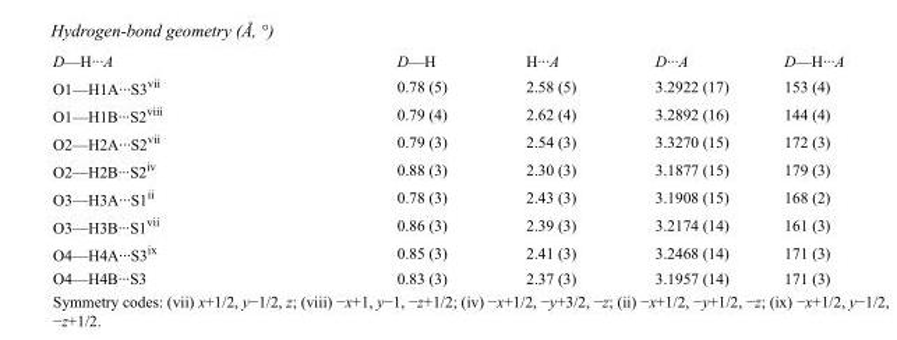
<table><tbody><tr><td>D—H···A</td><td>D—H</td><td>H···A</td><td>D···A</td><td>D—H···A</td></tr><tr><td>O1—H1A···S3<sup>vii</sup></td><td>0.78 (5)</td><td>2.58 (5)</td><td>3.2922 (17)</td><td>153 (4)</td></tr><tr><td>O1—H1B···S2<sup>viii</sup></td><td>0.79 (4)</td><td>2.62 (4)</td><td>3.2892 (16)</td><td>144 (4)</td></tr><tr><td>O2—H2A···S2<sup>vii</sup></td><td>0.79 (3)</td><td>2.54 (3)</td><td>3.3270 (15)</td><td>172 (3)</td></tr><tr><td>O2—H2B···S2<sup>iv</sup></td><td>0.88 (3)</td><td>2.30 (3)</td><td>3.1877 (15)</td><td>179 (3)</td></tr><tr><td>O3—H3A···S1<sup>ii</sup></td><td>0.78 (3)</td><td>2.43 (3)</td><td>3.1908 (15)</td><td>168 (2)</td></tr><tr><td>O3—H3B···S1<sup>vii</sup></td><td>0.86 (3)</td><td>2.39 (3)</td><td>3.2174 (14)</td><td>161 (3)</td></tr><tr><td>O4—H4A···S3<sup>ix</sup></td><td>0.85 (3)</td><td>2.41 (3)</td><td>3.2468 (14)</td><td>171 (3)</td></tr><tr><td>O4—H4B···S3</td><td>0.83 (3)</td><td>2.37 (3)</td><td>3.1957 (14)</td><td>171 (3)</td></tr></tbody></table>